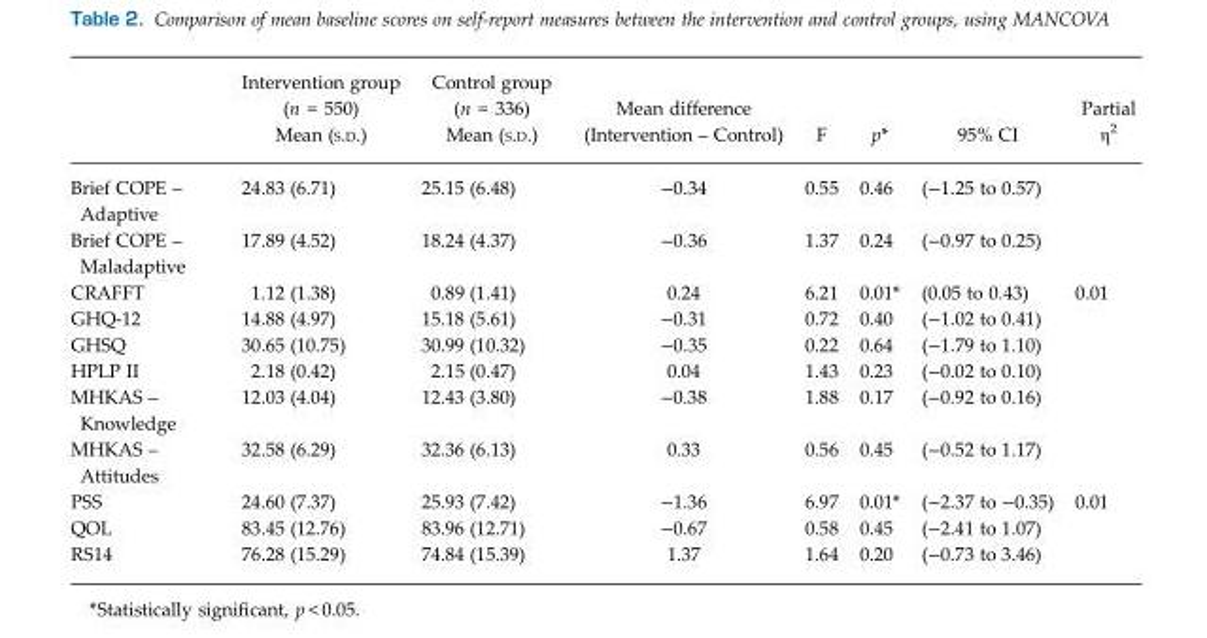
<table><thead><tr><td></td><td>Intervention group (n = 550) Mean (S.D.)</td><td>Control group (n = 336) Mean (S.D.)</td><td>Mean difference (Intervention – Control)</td><td>F</td><td>p*</td><td>95% CI</td><td>Partial η<sup>2</sup></td></tr></thead><tbody><tr><td>Brief COPE – Adaptive</td><td>24.83 (6.71)</td><td>25.15 (6.48)</td><td>−0.34</td><td>0.55</td><td>0.46</td><td>(−1.25 to 0.57)</td><td></td></tr><tr><td>Brief COPE – Maladaptive</td><td>17.89 (4.52)</td><td>18.24 (4.37)</td><td>−0.36</td><td>1.37</td><td>0.24</td><td>(−0.97 to 0.25)</td><td></td></tr><tr><td>CRAFFT</td><td>1.12 (1.38)</td><td>0.89 (1.41)</td><td>0.24</td><td>6.21</td><td>0.01*</td><td>(0.05 to 0.43)</td><td>0.01</td></tr><tr><td>GHQ-12</td><td>14.88 (4.97)</td><td>15.18 (5.61)</td><td>−0.31</td><td>0.72</td><td>0.40</td><td>(−1.02 to 0.41)</td><td></td></tr><tr><td>GHSQ</td><td>30.65 (10.75)</td><td>30.99 (10.32)</td><td>−0.35</td><td>0.22</td><td>0.64</td><td>(−1.79 to 1.10)</td><td></td></tr><tr><td>HPLP II</td><td>2.18 (0.42)</td><td>2.15 (0.47)</td><td>0.04</td><td>1.43</td><td>0.23</td><td>(−0.02 to 0.10)</td><td></td></tr><tr><td>MHKAS – Knowledge</td><td>12.03 (4.04)</td><td>12.43 (3.80)</td><td>−0.38</td><td>1.88</td><td>0.17</td><td>(−0.92 to 0.16)</td><td></td></tr><tr><td>MHKAS – Attitudes</td><td>32.58 (6.29)</td><td>32.36 (6.13)</td><td>0.33</td><td>0.56</td><td>0.45</td><td>(−0.52 to 1.17)</td><td></td></tr><tr><td>PSS</td><td>24.60 (7.37)</td><td>25.93 (7.42)</td><td>−1.36</td><td>6.97</td><td>0.01*</td><td>(−2.37 to −0.35)</td><td>0.01</td></tr><tr><td>QOL</td><td>83.45 (12.76)</td><td>83.96 (12.71)</td><td>−0.67</td><td>0.58</td><td>0.45</td><td>(−2.41 to 1.07)</td><td></td></tr><tr><td>RS14</td><td>76.28 (15.29)</td><td>74.84 (15.39)</td><td>1.37</td><td>1.64</td><td>0.20</td><td>(−0.73 to 3.46)</td><td></td></tr></tbody></table>